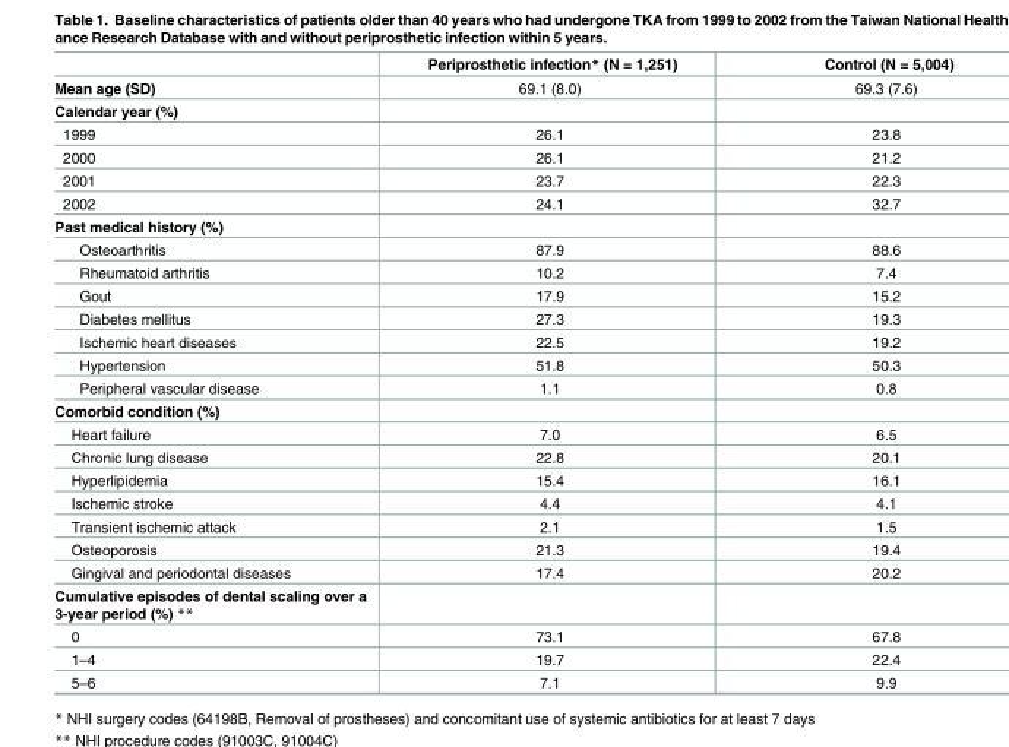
<table><thead><tr><td></td><td>Periprosthetic infection* (N = 1,251)</td><td>Control (N = 5,004)</td></tr></thead><tbody><tr><td>Mean age (SD)</td><td>69.1 (8.0)</td><td>69.3 (7.6)</td></tr><tr><td colspan="3">Calendar year (%)</td></tr><tr><td>1999</td><td>26.1</td><td>23.8</td></tr><tr><td>2000</td><td>26.1</td><td>21.2</td></tr><tr><td>2001</td><td>23.7</td><td>22.3</td></tr><tr><td>2002</td><td>24.1</td><td>32.7</td></tr><tr><td colspan="3">Past medical history (%)</td></tr><tr><td>Osteoarthritis</td><td>87.9</td><td>88.6</td></tr><tr><td>Rheumatoid arthritis</td><td>10.2</td><td>7.4</td></tr><tr><td>Gout</td><td>17.9</td><td>15.2</td></tr><tr><td>Diabetes mellitus</td><td>27.3</td><td>19.3</td></tr><tr><td>Ischemic heart diseases</td><td>22.5</td><td>19.2</td></tr><tr><td>Hypertension</td><td>51.8</td><td>50.3</td></tr><tr><td>Peripheral vascular disease</td><td>1.1</td><td>0.8</td></tr><tr><td colspan="3">Comorbid condition (%)</td></tr><tr><td>Heart failure</td><td>7.0</td><td>6.5</td></tr><tr><td>Chronic lung disease</td><td>22.8</td><td>20.1</td></tr><tr><td>Hyperlipidemia</td><td>15.4</td><td>16.1</td></tr><tr><td>Ischemic stroke</td><td>4.4</td><td>4.1</td></tr><tr><td>Transient ischemic attack</td><td>2.1</td><td>1.5</td></tr><tr><td>Osteoporosis</td><td>21.3</td><td>19.4</td></tr><tr><td>Gingival and periodontal diseases</td><td>17.4</td><td>20.2</td></tr><tr><td colspan="3">Cumulative episodes of dental scaling over a 3-year period (%) **</td></tr><tr><td>0</td><td>73.1</td><td>67.8</td></tr><tr><td>1–4</td><td>19.7</td><td>22.4</td></tr><tr><td>5–6</td><td>7.1</td><td>9.9</td></tr></tbody></table>